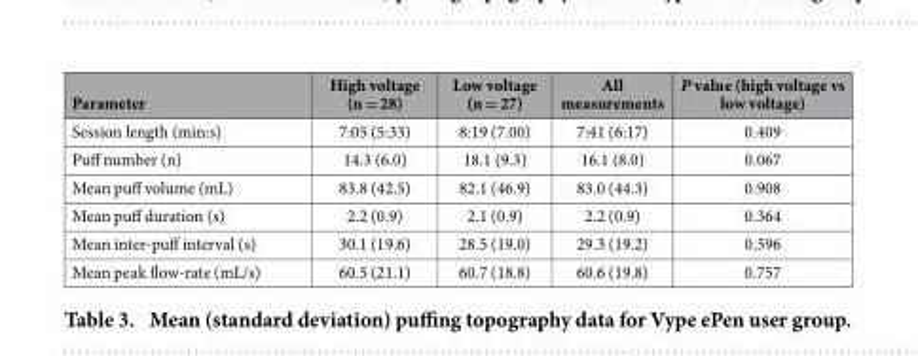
<table><thead><tr><td>Parameter</td><td>High voltage (n = 28)</td><td>Low voltage (n = 27)</td><td>All measurements</td><td>P value (high voltage vs low voltage)</td></tr></thead><tbody><tr><td>Session length (min:s)</td><td>7:05 (5:33)</td><td>8:19 (7.00)</td><td>7:41 (6:17)</td><td>0.409</td></tr><tr><td>Puff number (n)</td><td>14.3 (6.0)</td><td>18.1 (9.3)</td><td>16.1 (8.0)</td><td>0.067</td></tr><tr><td>Mean puff volume (mL)</td><td>83.8 (42.5)</td><td>82.1 (46.9)</td><td>83.0 (44.3)</td><td>0.908</td></tr><tr><td>Mean puff duration (s)</td><td>2.2 (0.9)</td><td>2.1 (0.9)</td><td>2.2 (0.9)</td><td>0.364</td></tr><tr><td>Mean inter-puff interval (s)</td><td>30.1 (19.6)</td><td>28.5 (19.0)</td><td>29.3 (19.2)</td><td>0.596</td></tr><tr><td>Mean peak flow-rate (mL/s)</td><td>60.5 (21.1)</td><td>60.7 (18.8)</td><td>60.6 (19.8)</td><td>0.757</td></tr></tbody></table>